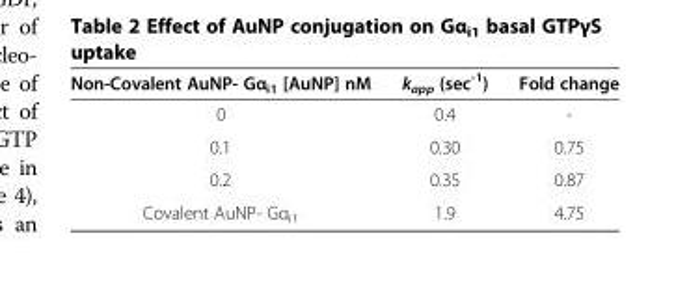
<table><thead><tr><td>Non-Covalent AuNP- Gα<sub>i1</sub> [AuNP] nM</td><td>k<sub>app</sub> (sec<sup>-1</sup>)</td><td>Fold change</td></tr></thead><tbody><tr><td>0</td><td>0.4</td><td>-</td></tr><tr><td>0.1</td><td>0.30</td><td>0.75</td></tr><tr><td>0.2</td><td>0.35</td><td>0.87</td></tr><tr><td>Covalent AuNP- Gα<sub>i1</sub></td><td>1.9</td><td>4.75</td></tr></tbody></table>